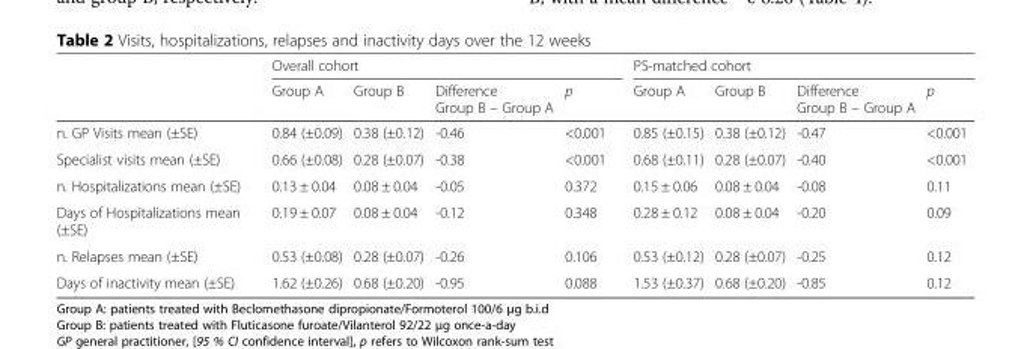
<table><thead><tr><td rowspan="2"></td><td colspan="4">Overall cohort</td><td colspan="4">PS-matched cohort</td></tr><tr><td>Group A</td><td>Group B</td><td>Difference Group B – Group A</td><td>p</td><td>Group A</td><td>Group B</td><td>Difference Group B – Group A</td><td>p</td></tr></thead><tbody><tr><td>n. GP Visits mean (±SE)</td><td>0.84 (±0.09)</td><td>0.38 (±0.12)</td><td>-0.46</td><td>&lt;0.001</td><td>0.85 (±0.15)</td><td>0.38 (±0.12)</td><td>-0.47</td><td>&lt;0.001</td></tr><tr><td>Specialist visits mean (±SE)</td><td>0.66 (±0.08)</td><td>0.28 (±0.07)</td><td>-0.38</td><td>&lt;0.001</td><td>0.68 (±0.11)</td><td>0.28 (±0.07)</td><td>-0.40</td><td>&lt;0.001</td></tr><tr><td>n. Hospitalizations mean (±SE)</td><td>0.13 ± 0.04</td><td>0.08 ± 0.04</td><td>-0.05</td><td>0.372</td><td>0.15 ± 0.06</td><td>0.08 ± 0.04</td><td>-0.08</td><td>0.11</td></tr><tr><td>Days of Hospitalizations mean (±SE)</td><td>0.19 ± 0.07</td><td>0.08 ± 0.04</td><td>-0.12</td><td>0.348</td><td>0.28 ± 0.12</td><td>0.08 ± 0.04</td><td>-0.20</td><td>0.09</td></tr><tr><td>n. Relapses mean (±SE)</td><td>0.53 (±0.08)</td><td>0.28 (±0.07)</td><td>-0.26</td><td>0.106</td><td>0.53 (±0.12)</td><td>0.28 (±0.07)</td><td>-0.25</td><td>0.12</td></tr><tr><td>Days of inactivity mean (±SE)</td><td>1.62 (±0.26)</td><td>0.68 (±0.20)</td><td>-0.95</td><td>0.088</td><td>1.53 (±0.37)</td><td>0.68 (±0.20)</td><td>-0.85</td><td>0.12</td></tr></tbody></table>